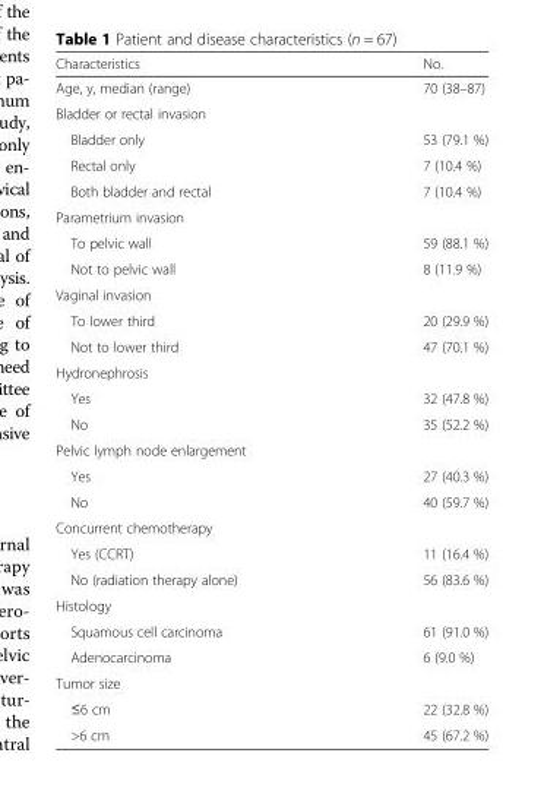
<table><thead><tr><td>Characteristics</td><td>No.</td></tr></thead><tbody><tr><td>Age, y, median (range)</td><td>70 (38–87)</td></tr><tr><td colspan="2">Bladder or rectal invasion</td></tr><tr><td>Bladder only</td><td>53 (79.1 %)</td></tr><tr><td>Rectal only</td><td>7 (10.4 %)</td></tr><tr><td>Both bladder and rectal</td><td>7 (10.4 %)</td></tr><tr><td colspan="2">Parametrium invasion</td></tr><tr><td>To pelvic wall</td><td>59 (88.1 %)</td></tr><tr><td>Not to pelvic wall</td><td>8 (11.9 %)</td></tr><tr><td colspan="2">Vaginal invasion</td></tr><tr><td>To lower third</td><td>20 (29.9 %)</td></tr><tr><td>Not to lower third</td><td>47 (70.1 %)</td></tr><tr><td colspan="2">Hydronephrosis</td></tr><tr><td>Yes</td><td>32 (47.8 %)</td></tr><tr><td>No</td><td>35 (52.2 %)</td></tr><tr><td colspan="2">Pelvic lymph node enlargement</td></tr><tr><td>Yes</td><td>27 (40.3 %)</td></tr><tr><td>No</td><td>40 (59.7 %)</td></tr><tr><td colspan="2">Concurrent chemotherapy</td></tr><tr><td>Yes (CCRT)</td><td>11 (16.4 %)</td></tr><tr><td>No (radiation therapy alone)</td><td>56 (83.6 %)</td></tr><tr><td colspan="2">Histology</td></tr><tr><td>Squamous cell carcinoma</td><td>61 (91.0 %)</td></tr><tr><td>Adenocarcinoma</td><td>6 (9.0 %)</td></tr><tr><td colspan="2">Tumor size</td></tr><tr><td>≤6 cm</td><td>22 (32.8 %)</td></tr><tr><td>&gt;6 cm</td><td>45 (67.2 %)</td></tr></tbody></table>